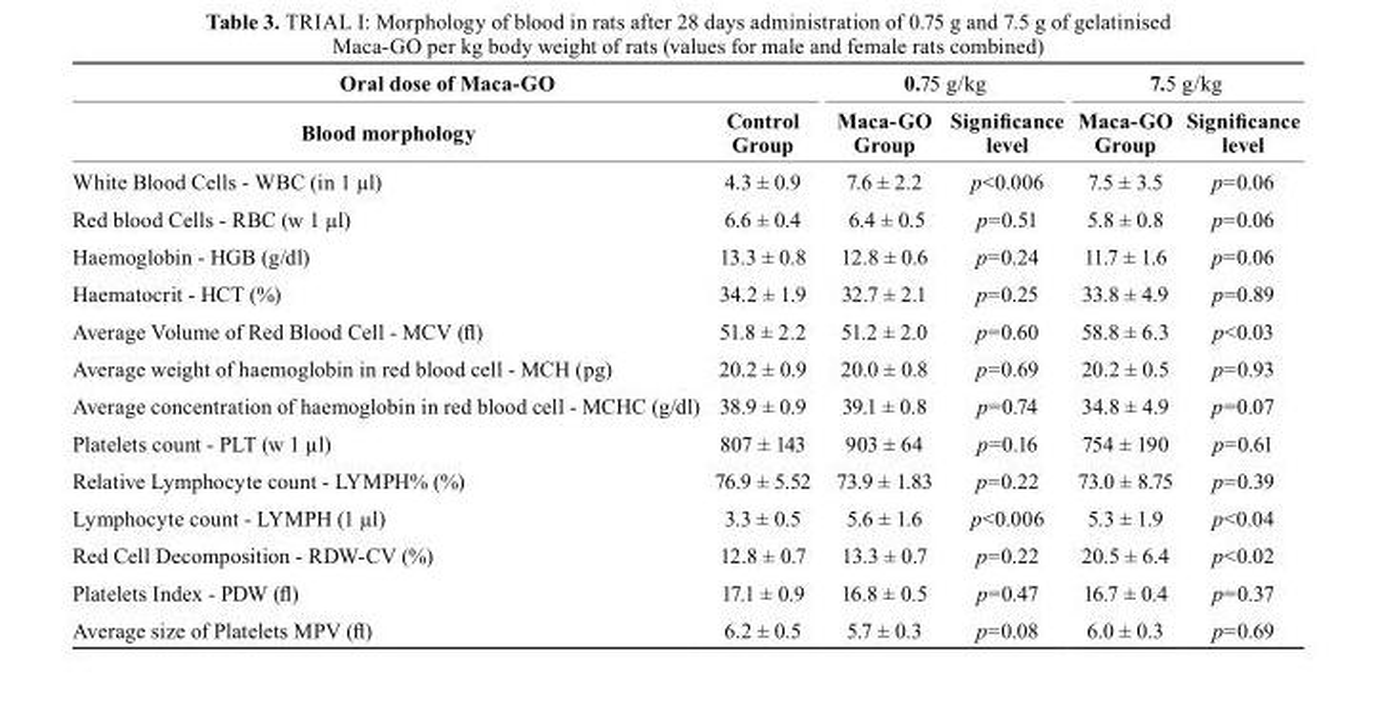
<table><thead><tr><td colspan="2">Oral dose of Maca-GO</td><td colspan="2">0.75 g/kg</td><td colspan="2">7.5 g/kg</td></tr><tr><td>blood morphology</td><td>control Group</td><td>Maca-GO Group</td><td>Significance level</td><td>Maca-GO Group</td><td>Significance level</td></tr></thead><tbody><tr><td>White Blood Cells - WBC (in 1 µl)</td><td>4.3 ± 0.9</td><td>7.6 ± 2.2</td><td>p&lt;0.006</td><td>7.5 ± 3.5</td><td>p=0.06</td></tr><tr><td>Red blood Cells - RBC (w 1 µl)</td><td>6.6 ± 0.4</td><td>6.4 ± 0.5</td><td>p=0.51</td><td>5.8 ± 0.8</td><td>p=0.06</td></tr><tr><td>Haemoglobin - HGB (g/dl)</td><td>13.3 ± 0.8</td><td>12.8 ± 0.6</td><td>p=0.24</td><td>11.7 ± 1.6</td><td>p=0.06</td></tr><tr><td>Haematocrit - HCT (%)</td><td>34.2 ± 1.9</td><td>32.7 ± 2.1</td><td>p=0.25</td><td>33.8 ± 4.9</td><td>p=0.89</td></tr><tr><td>Average Volume of Red Blood Cell - MCV (fl)</td><td>51.8 ± 2.2</td><td>51.2 ± 2.0</td><td>p=0.60</td><td>58.8 ± 6.3</td><td>p&lt;0.03</td></tr><tr><td>Average weight of haemoglobin in red blood cell - MCH (pg)</td><td>20.2 ± 0.9</td><td>20.0 ± 0.8</td><td>p=0.69</td><td>20.2 ± 0.5</td><td>p=0.93</td></tr><tr><td>Average concentration of haemoglobin in red blood cell - MCHC (g/dl)</td><td>38.9 ± 0.9</td><td>39.1 ± 0.8</td><td>p=0.74</td><td>34.8 ± 4.9</td><td>p=0.07</td></tr><tr><td>Platelets count - PLT (w 1 µl)</td><td>807 ± 143</td><td>903 ± 64</td><td>p=0.16</td><td>754 ± 190</td><td>p=0.61</td></tr><tr><td>Relative Lymphocyte count - LYMPH% (%)</td><td>76.9 ± 5.52</td><td>73.9 ± 1.83</td><td>p=0.22</td><td>73.0 ± 8.75</td><td>p=0.39</td></tr><tr><td>Lymphocyte count - LYMPH (1 µl)</td><td>3.3 ± 0.5</td><td>5.6 ± 1.6</td><td>p&lt;0.006</td><td>5.3 ± 1.9</td><td>p&lt;0.04</td></tr><tr><td>Red Cell Decomposition - RDW-CV (%)</td><td>12.8 ± 0.7</td><td>13.3 ± 0.7</td><td>p=0.22</td><td>20.5 ± 6.4</td><td>p&lt;0.02</td></tr><tr><td>Platelets Index - PDW (fl)</td><td>17.1 ± 0.9</td><td>16.8 ± 0.5</td><td>p=0.47</td><td>16.7 ± 0.4</td><td>p=0.37</td></tr><tr><td>Average size of Platelets MPV (fl)</td><td>6.2 ± 0.5</td><td>5.7 ± 0.3</td><td>p=0.08</td><td>6.0 ± 0.3</td><td>p=0.69</td></tr></tbody></table>